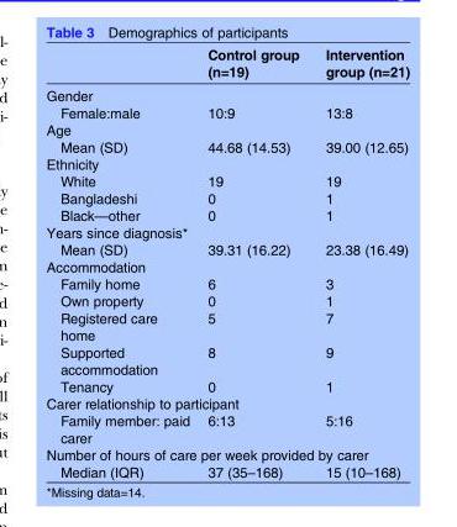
<table><thead><tr><td></td><td>Control group (n=19)</td><td>Intervention group (n=21)</td></tr></thead><tbody><tr><td colspan="3">Gender</td></tr><tr><td>Female:male</td><td>10:9</td><td>13:8</td></tr><tr><td colspan="3">Age</td></tr><tr><td>Mean (SD)</td><td>44.68 (14.53)</td><td>39.00 (12.65)</td></tr><tr><td colspan="3">Ethnicity</td></tr><tr><td>White</td><td>19</td><td>19</td></tr><tr><td>Bangladeshi</td><td>0</td><td>1</td></tr><tr><td>Black—other</td><td>0</td><td>1</td></tr><tr><td colspan="3">Years since diagnosis*</td></tr><tr><td>Mean (SD)</td><td>39.31 (16.22)</td><td>23.38 (16.49)</td></tr><tr><td colspan="3">Accommodation</td></tr><tr><td>Family home</td><td>6</td><td>3</td></tr><tr><td>Own property</td><td>0</td><td>1</td></tr><tr><td>Registered care home</td><td>5</td><td>7</td></tr><tr><td>Supported accommodation</td><td>8</td><td>9</td></tr><tr><td>Tenancy</td><td>0</td><td>1</td></tr><tr><td colspan="3">Carer relationship to participant</td></tr><tr><td>Family member: paid carer</td><td>6:13</td><td>5:16</td></tr><tr><td colspan="3">Number of hours of care per week provided by carer</td></tr><tr><td>Median (IQR)</td><td>37 (35–168)</td><td>15 (10–168)</td></tr></tbody></table>